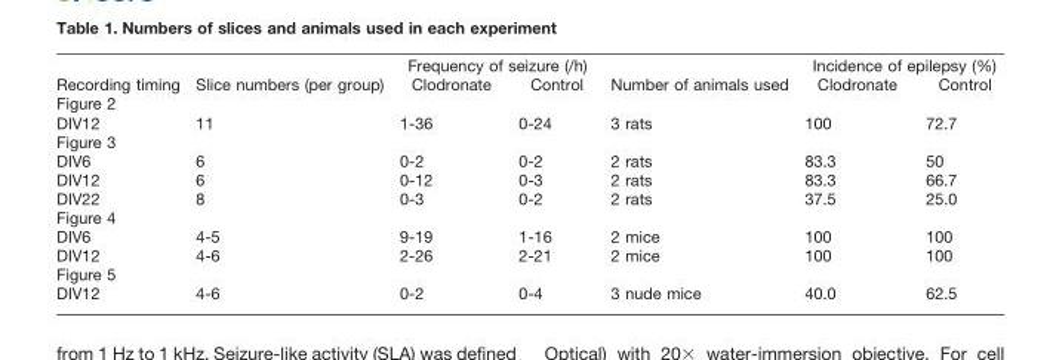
<table><thead><tr><td rowspan="2">Recording timing</td><td rowspan="2">Slice numbers (per group)</td><td colspan="2">Frequency of seizure (/h)</td><td rowspan="2">Number of animals used</td><td colspan="2">Incidence of epilepsy (%)</td></tr><tr><td>Clodronate</td><td>Control</td><td>Clodronate</td><td>Control</td></tr></thead><tbody><tr><td colspan="7">Figure 2</td></tr><tr><td>DIV12</td><td>11</td><td>1-36</td><td>0-24</td><td>3 rats</td><td>100</td><td>72.7</td></tr><tr><td colspan="7">Figure 3</td></tr><tr><td>DIV6</td><td>6</td><td>0-2</td><td>0-2</td><td>2 rats</td><td>83.3</td><td>50</td></tr><tr><td>DIV12</td><td>6</td><td>0-12</td><td>0-3</td><td>2 rats</td><td>83.3</td><td>66.7</td></tr><tr><td>DIV22</td><td>8</td><td>0-3</td><td>0-2</td><td>2 rats</td><td>37.5</td><td>25.0</td></tr><tr><td colspan="7">Figure 4</td></tr><tr><td>DIV6</td><td>4-5</td><td>9-19</td><td>1-16</td><td>2 mice</td><td>100</td><td>100</td></tr><tr><td>DIV12</td><td>4-6</td><td>2-26</td><td>2-21</td><td>2 mice</td><td>100</td><td>100</td></tr><tr><td colspan="7">Figure 5</td></tr><tr><td>DIV12</td><td>4-6</td><td>0-2</td><td>0-4</td><td>3 nude mice</td><td>40.0</td><td>62.5</td></tr></tbody></table>